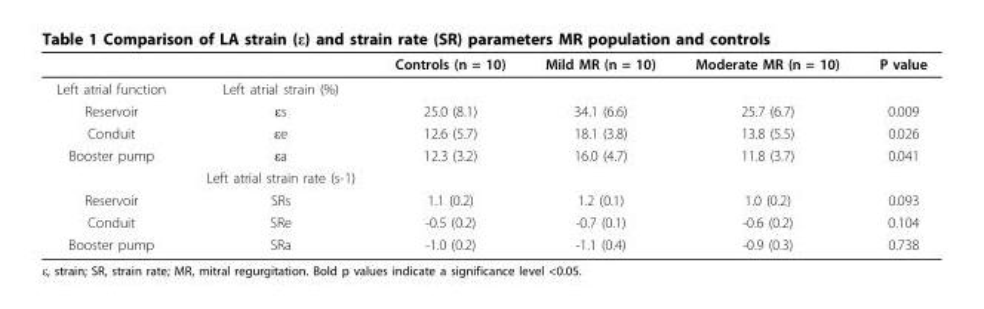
<table><thead><tr><td></td><td></td><td>Controls (n = 10)</td><td>Mild MR (n = 10)</td><td>Moderate MR (n = 10)</td><td>P value</td></tr></thead><tbody><tr><td>Left atrial function</td><td>Left atrial strain (%)</td><td></td><td></td><td></td><td></td></tr><tr><td>Reservoir</td><td>εs</td><td>25.0 (8.1)</td><td>34.1 (6.6)</td><td>25.7 (6.7)</td><td>0.009</td></tr><tr><td>Conduit</td><td>εe</td><td>12.6 (5.7)</td><td>18.1 (3.8)</td><td>13.8 (5.5)</td><td>0.026</td></tr><tr><td rowspan="2">Booster pump</td><td>εa</td><td>12.3 (3.2)</td><td>16.0 (4.7)</td><td>11.8 (3.7)</td><td>0.041</td></tr><tr><td>Left atrial strain rate (s-1)</td><td></td><td></td><td></td><td></td></tr><tr><td>Reservoir</td><td>SRs</td><td>1.1 (0.2)</td><td>1.2 (0.1)</td><td>1.0 (0.2)</td><td>0.093</td></tr><tr><td>Conduit</td><td>SRe</td><td>-0.5 (0.2)</td><td>-0.7 (0.1)</td><td>-0.6 (0.2)</td><td>0.104</td></tr><tr><td>Booster pump</td><td>SRa</td><td>-1.0 (0.2)</td><td>-1.1 (0.4)</td><td>-0.9 (0.3)</td><td>0.738</td></tr></tbody></table>